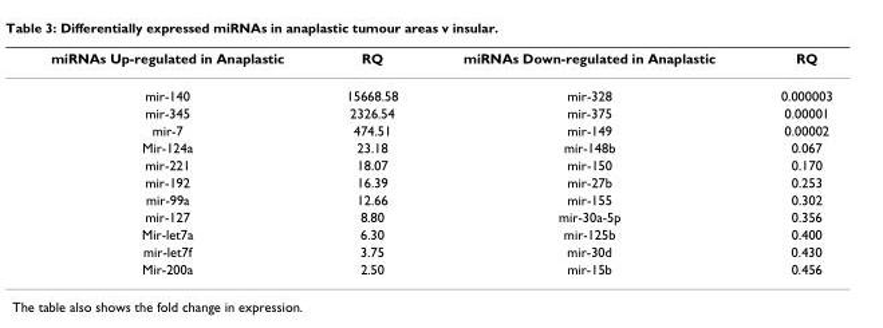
<table><thead><tr><td>miRNAs Up-regulated in Anaplastic</td><td>RQ</td><td>miRNAs Down-regulated in Anaplastic</td><td>RQ</td></tr></thead><tbody><tr><td>mir-140</td><td>15668.58</td><td>mir-328</td><td>0.000003</td></tr><tr><td>mir-345</td><td>2326.54</td><td>mir-375</td><td>0.00001</td></tr><tr><td>mir-7</td><td>474.51</td><td>mir-149</td><td>0.00002</td></tr><tr><td>Mir-124a</td><td>23.18</td><td>mir-148b</td><td>0.067</td></tr><tr><td>mir-221</td><td>18.07</td><td>mir-150</td><td>0.170</td></tr><tr><td>mir-192</td><td>16.39</td><td>mir-27b</td><td>0.253</td></tr><tr><td>mir-99a</td><td>12.66</td><td>mir-155</td><td>0.302</td></tr><tr><td>mir-127</td><td>8.80</td><td>mir-30a-5p</td><td>0.356</td></tr><tr><td>Mir-let7a</td><td>6.30</td><td>mir-125b</td><td>0.400</td></tr><tr><td>mir-let7f</td><td>3.75</td><td>mir-30d</td><td>0.430</td></tr><tr><td>Mir-200a</td><td>2.50</td><td>mir-15b</td><td>0.456</td></tr></tbody></table>